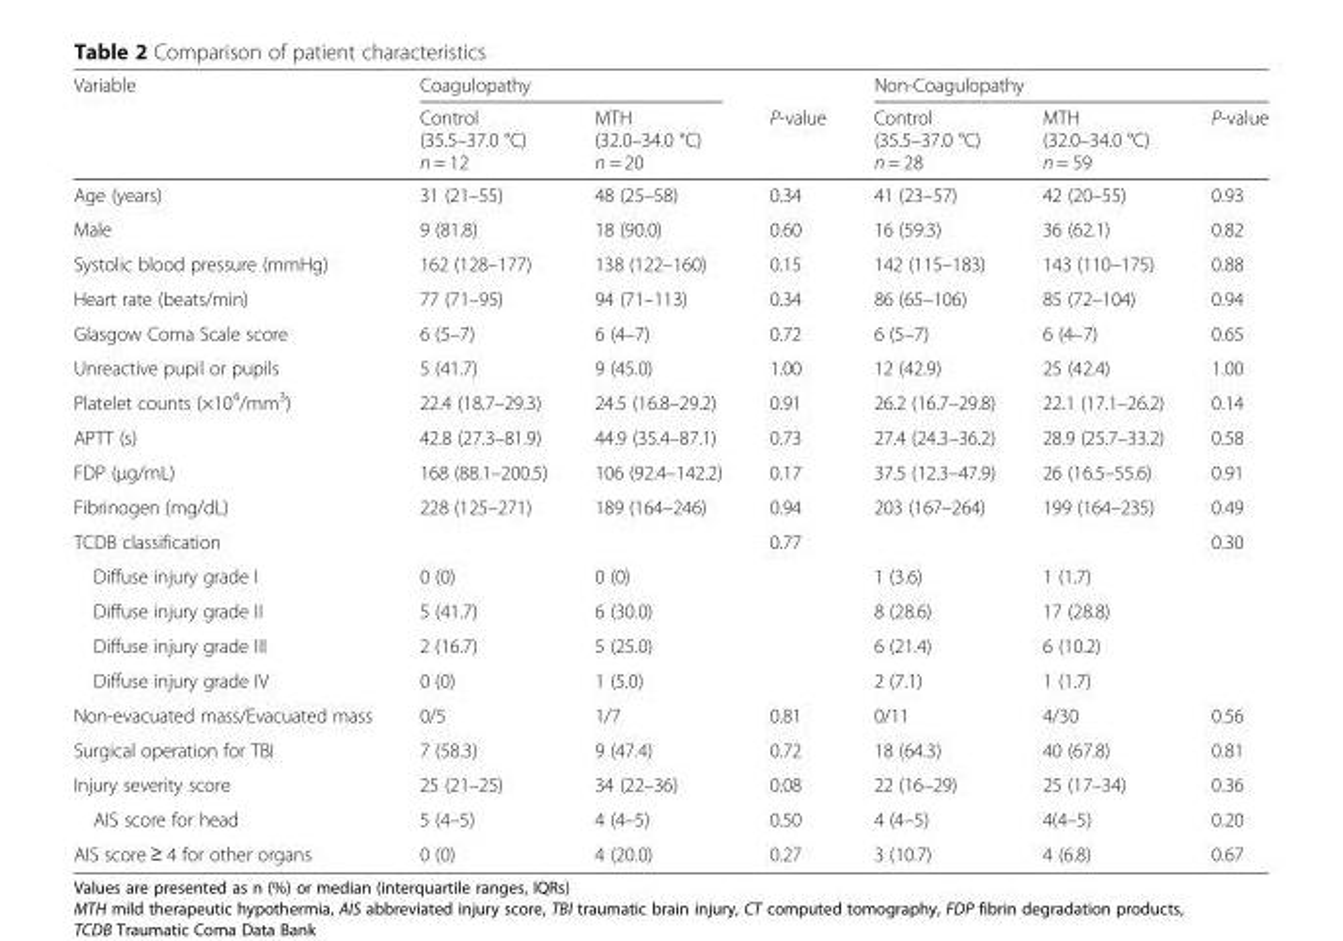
<table><thead><tr><td rowspan="2">Variable</td><td colspan="2">Coagulopathy</td><td rowspan="2">P-value</td><td colspan="3">Non-Coagulopathy</td></tr><tr><td>Control (35.5–37.0 °C) n = 12</td><td>MTH (32.0–34.0 °C) n = 20</td><td>Control (35.5–37.0 °C) n = 28</td><td>MTH (32.0–34.0 °C) n = 59</td><td>P-value</td></tr></thead><tbody><tr><td>Age (years)</td><td>31 (21–55)</td><td>48 (25–58)</td><td>0.34</td><td>41 (23–57)</td><td>42 (20–55)</td><td>0.93</td></tr><tr><td>Male</td><td>9 (81.8)</td><td>18 (90.0)</td><td>0.60</td><td>16 (59.3)</td><td>36 (62.1)</td><td>0.82</td></tr><tr><td>Systolic blood pressure (mmHg)</td><td>162 (128–177)</td><td>138 (122–160)</td><td>0.15</td><td>142 (115–183)</td><td>143 (110–175)</td><td>0.88</td></tr><tr><td>Heart rate (beats/min)</td><td>77 (71–95)</td><td>94 (71–113)</td><td>0.34</td><td>86 (65–106)</td><td>85 (72–104)</td><td>0.94</td></tr><tr><td>Glasgow Coma Scale score</td><td>6 (5–7)</td><td>6 (4–7)</td><td>0.72</td><td>6 (5–7)</td><td>6 (4–7)</td><td>0.65</td></tr><tr><td>Unreactive pupil or pupils</td><td>5 (41.7)</td><td>9 (45.0)</td><td>1.00</td><td>12 (42.9)</td><td>25 (42.4)</td><td>1.00</td></tr><tr><td>Platelet counts (×10<sup>4</sup>/mm<sup>3</sup>)</td><td>22.4 (18.7–29.3)</td><td>24.5 (16.8–29.2)</td><td>0.91</td><td>26.2 (16.7–29.8)</td><td>22.1 (17.1–26.2)</td><td>0.14</td></tr><tr><td>APTT (s)</td><td>42.8 (27.3–81.9)</td><td>44.9 (35.4–87.1)</td><td>0.73</td><td>27.4 (24.3–36.2)</td><td>28.9 (25.7–33.2)</td><td>0.58</td></tr><tr><td>FDP (μg/mL)</td><td>168 (88.1–200.5)</td><td>106 (92.4–142.2)</td><td>0.17</td><td>37.5 (12.3–47.9)</td><td>26 (16.5–55.6)</td><td>0.91</td></tr><tr><td>Fibrinogen (mg/dL)</td><td>228 (125–271)</td><td>189 (164–246)</td><td>0.94</td><td>203 (167–264)</td><td>199 (164–235)</td><td>0.49</td></tr><tr><td>TCDB classification</td><td></td><td></td><td>0.77</td><td></td><td></td><td>0.30</td></tr><tr><td>Diffuse injury grade I</td><td>0 (0)</td><td>0 (0)</td><td></td><td>1 (3.6)</td><td>1 (1.7)</td><td></td></tr><tr><td>Diffuse injury grade II</td><td>5 (41.7)</td><td>6 (30.0)</td><td></td><td>8 (28.6)</td><td>17 (28.8)</td><td></td></tr><tr><td>Diffuse injury grade III</td><td>2 (16.7)</td><td>5 (25.0)</td><td></td><td>6 (21.4)</td><td>6 (10.2)</td><td></td></tr><tr><td>Diffuse injury grade IV</td><td>0 (0)</td><td>1 (5.0)</td><td></td><td>2 (7.1)</td><td>1 (1.7)</td><td></td></tr><tr><td>Non-evacuated mass/Evacuated mass</td><td>0/5</td><td>1/7</td><td>0.81</td><td>0/11</td><td>4/30</td><td>0.56</td></tr><tr><td>Surgical operation for TBI</td><td>7 (58.3)</td><td>9 (47.4)</td><td>0.72</td><td>18 (64.3)</td><td>40 (67.8)</td><td>0.81</td></tr><tr><td>Injury severity score</td><td>25 (21–25)</td><td>34 (22–36)</td><td>0.08</td><td>22 (16–29)</td><td>25 (17–34)</td><td>0.36</td></tr><tr><td>AIS score for head</td><td>5 (4–5)</td><td>4 (4–5)</td><td>0.50</td><td>4 (4–5)</td><td>4(4–5)</td><td>0.20</td></tr><tr><td>AIS score ≥ 4 for other organs</td><td>0 (0)</td><td>4 (20.0)</td><td>0.27</td><td>3 (10.7)</td><td>4 (6.8)</td><td>0.67</td></tr></tbody></table>